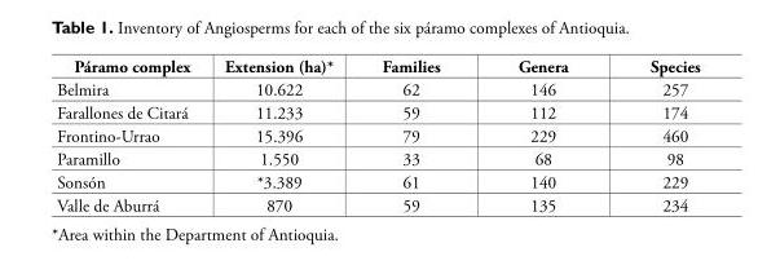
<table><thead><tr><td>Páramo complex</td><td>Extension (ha)*</td><td>Families</td><td>Genera</td><td>Species</td></tr></thead><tbody><tr><td>Belmira</td><td>10.622</td><td>62</td><td>146</td><td>257</td></tr><tr><td>Farallones de Citará</td><td>11.233</td><td>59</td><td>112</td><td>174</td></tr><tr><td>Frontino-Urrao</td><td>15.396</td><td>79</td><td>229</td><td>460</td></tr><tr><td>Paramillo</td><td>1.550</td><td>33</td><td>68</td><td>98</td></tr><tr><td>Sonsón</td><td>*3.389</td><td>61</td><td>140</td><td>229</td></tr><tr><td>Valle de Aburrá</td><td>870</td><td>59</td><td>135</td><td>234</td></tr></tbody></table>